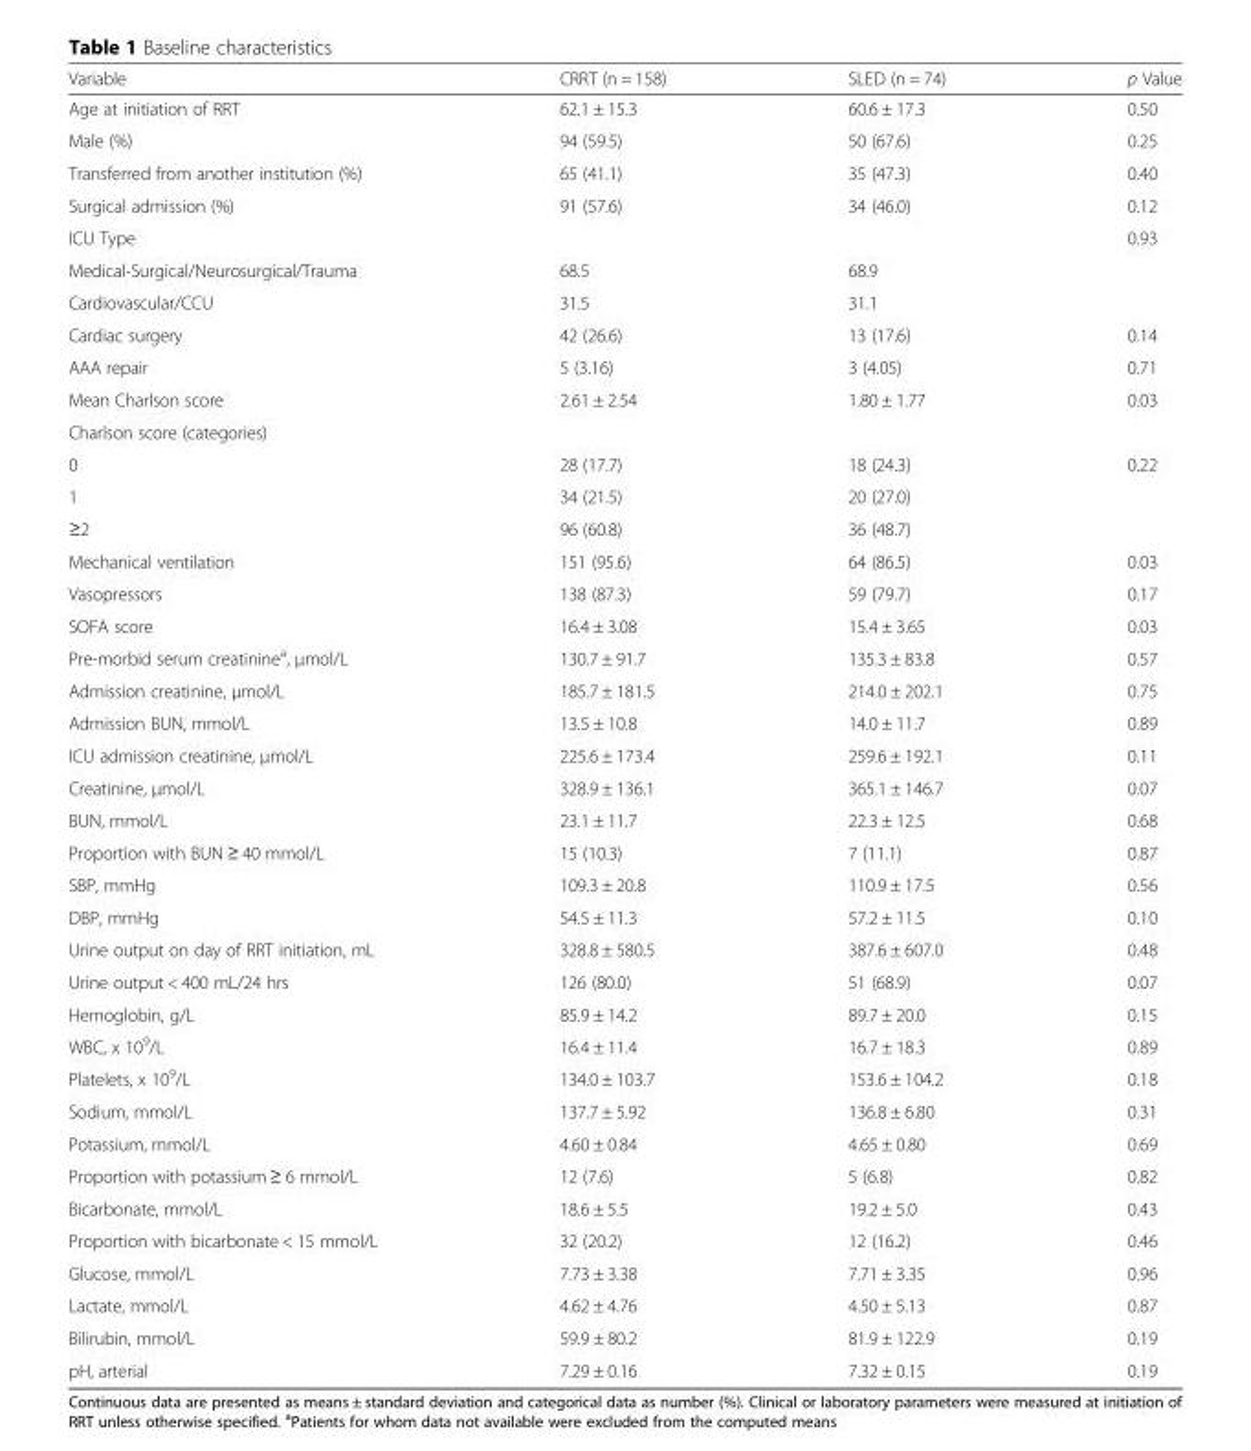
<table><thead><tr><td>Variable</td><td>CRRT (n = 158)</td><td>SLED (n = 74)</td><td>p Value</td></tr></thead><tbody><tr><td>Age at initiation of RRT</td><td>62.1 ± 15.3</td><td>60.6 ± 17.3</td><td>0.50</td></tr><tr><td>Male (%)</td><td>94 (59.5)</td><td>50 (67.6)</td><td>0.25</td></tr><tr><td>Transferred from another institution (%)</td><td>65 (41.1)</td><td>35 (47.3)</td><td>0.40</td></tr><tr><td>Surgical admission (%)</td><td>91 (57.6)</td><td>34 (46.0)</td><td>0.12</td></tr><tr><td>ICU Type</td><td></td><td></td><td>0.93</td></tr><tr><td>Medical-Surgical/Neurosurgical/Trauma</td><td>68.5</td><td>68.9</td><td></td></tr><tr><td>Cardiovascular/CCU</td><td>31.5</td><td>31.1</td><td></td></tr><tr><td>Cardiac surgery</td><td>42 (26.6)</td><td>13 (17.6)</td><td>0.14</td></tr><tr><td>AAA repair</td><td>5 (3.16)</td><td>3 (4.05)</td><td>0.71</td></tr><tr><td>Mean Charlson score</td><td>2.61 ± 2.54</td><td>1.80 ± 1.77</td><td>0.03</td></tr><tr><td colspan="4">Charlson score (categories)</td></tr><tr><td>0</td><td>28 (17.7)</td><td>18 (24.3)</td><td>0.22</td></tr><tr><td>1</td><td>34 (21.5)</td><td>20 (27.0)</td><td></td></tr><tr><td>≥2</td><td>96 (60.8)</td><td>36 (48.7)</td><td></td></tr><tr><td>Mechanical ventilation</td><td>151 (95.6)</td><td>64 (86.5)</td><td>0.03</td></tr><tr><td>Vasopressors</td><td>138 (87.3)</td><td>59 (79.7)</td><td>0.17</td></tr><tr><td>SOFA score</td><td>16.4 ± 3.08</td><td>15.4 ± 3.65</td><td>0.03</td></tr><tr><td>Pre-morbid serum creatinine<sup>a</sup>, μmol/L</td><td>130.7 ± 91.7</td><td>135.3 ± 83.8</td><td>0.57</td></tr><tr><td>Admission creatinine, μmol/L</td><td>185.7 ± 181.5</td><td>214.0 ± 202.1</td><td>0.75</td></tr><tr><td>Admission BUN, mmol/L</td><td>13.5 ± 10.8</td><td>14.0 ± 11.7</td><td>0.89</td></tr><tr><td>ICU admission creatinine, μmol/L</td><td>225.6 ± 173.4</td><td>259.6 ± 192.1</td><td>0.11</td></tr><tr><td>Creatinine, μmol/L</td><td>328.9 ± 136.1</td><td>365.1 ± 146.7</td><td>0.07</td></tr><tr><td>BUN, mmol/L</td><td>23.1 ± 11.7</td><td>22.3 ± 12.5</td><td>0.68</td></tr><tr><td>Proportion with BUN ≥ 40 mmol/L</td><td>15 (10.3)</td><td>7 (11.1)</td><td>0.87</td></tr><tr><td>SBP, mmHg</td><td>109.3 ± 20.8</td><td>110.9 ± 17.5</td><td>0.56</td></tr><tr><td>DBP, mmHg</td><td>54.5 ± 11.3</td><td>57.2 ± 11.5</td><td>0.10</td></tr><tr><td>Urine output on day of RRT initiation, mL</td><td>328.8 ± 580.5</td><td>387.6 ± 607.0</td><td>0.48</td></tr><tr><td>Urine output &lt; 400 mL/24 hrs</td><td>126 (80.0)</td><td>51 (68.9)</td><td>0.07</td></tr><tr><td>Hemoglobin, g/L</td><td>85.9 ± 14.2</td><td>89.7 ± 20.0</td><td>0.15</td></tr><tr><td>WBC, x 10<sup>9</sup>/L</td><td>16.4 ± 11.4</td><td>16.7 ± 18.3</td><td>0.89</td></tr><tr><td>Platelets, x 10<sup>9</sup>/L</td><td>134.0 ± 103.7</td><td>153.6 ± 104.2</td><td>0.18</td></tr><tr><td>Sodium, mmol/L</td><td>137.7 ± 5.92</td><td>136.8 ± 6.80</td><td>0.31</td></tr><tr><td>Potassium, mmol/L</td><td>4.60 ± 0.84</td><td>4.65 ± 0.80</td><td>0.69</td></tr><tr><td>Proportion with potassium ≥ 6 mmol/L</td><td>12 (7.6)</td><td>5 (6.8)</td><td>0.82</td></tr><tr><td>Bicarbonate, mmol/L</td><td>18.6 ± 5.5</td><td>19.2 ± 5.0</td><td>0.43</td></tr><tr><td>Proportion with bicarbonate &lt; 15 mmol/L</td><td>32 (20.2)</td><td>12 (16.2)</td><td>0.46</td></tr><tr><td>Glucose, mmol/L</td><td>7.73 ± 3.38</td><td>7.71 ± 3.35</td><td>0.96</td></tr><tr><td>Lactate, mmol/L</td><td>4.62 ± 4.76</td><td>4.50 ± 5.13</td><td>0.87</td></tr><tr><td>Bilirubin, mmol/L</td><td>59.9 ± 80.2</td><td>81.9 ± 122.9</td><td>0.19</td></tr><tr><td>pH, arterial</td><td>7.29 ± 0.16</td><td>7.32 ± 0.15</td><td>0.19</td></tr></tbody></table>